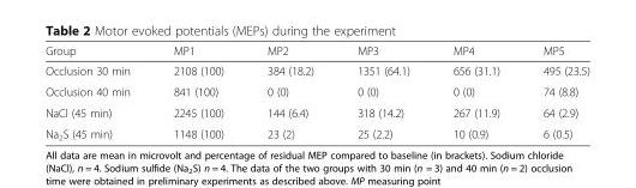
<table><thead><tr><td>Group</td><td>MP1</td><td>MP2</td><td>MP3</td><td>MP4</td><td>MP5</td></tr></thead><tbody><tr><td>Occlusion 30 min</td><td>2108 (100)</td><td>384 (18.2)</td><td>1351 (64.1)</td><td>656 (31.1)</td><td>495 (23.5)</td></tr><tr><td>Occlusion 40 min</td><td>841 (100)</td><td>0 (0)</td><td>0 (0)</td><td>0 (0)</td><td>74 (8.8)</td></tr><tr><td>NaCl (45 min)</td><td>2245 (100)</td><td>144 (6.4)</td><td>318 (14.2)</td><td>267 (11.9)</td><td>64 (2.9)</td></tr><tr><td>Na<sub>2</sub>S (45 min)</td><td>1148 (100)</td><td>23 (2)</td><td>25 (2.2)</td><td>10 (0.9)</td><td>6 (0.5)</td></tr></tbody></table>